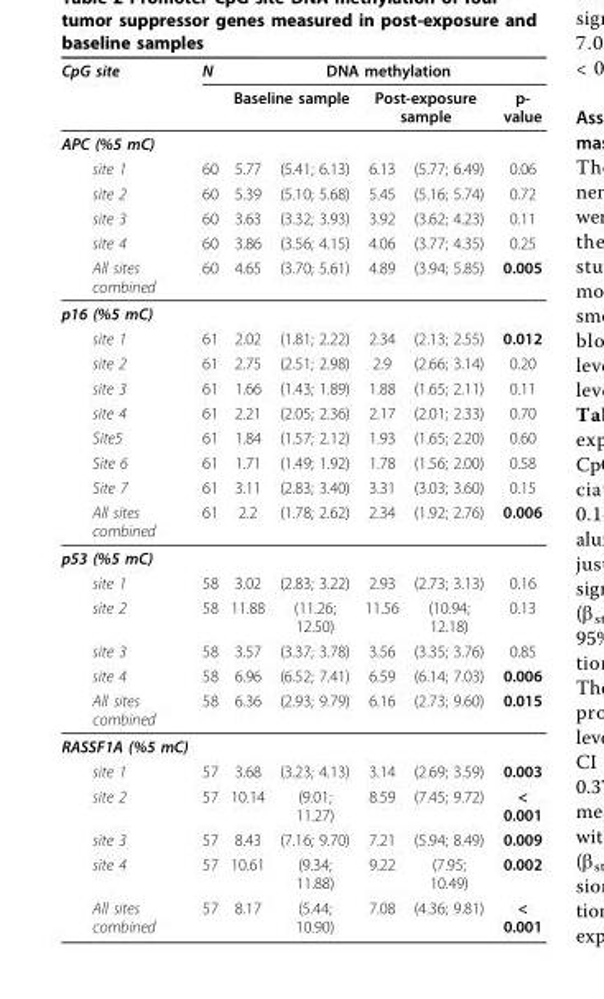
<table><thead><tr><td rowspan="3">CpG site APC (%5 mC)</td><td rowspan="3">N</td><td colspan="5">DNA methylation</td></tr><tr><td colspan="2">Baseline sample</td><td colspan="2">Post-exposure sample</td><td rowspan="2">p- value</td></tr><tr><td></td><td></td><td></td><td></td></tr></thead><tbody><tr><td>site 1</td><td>60</td><td>5.77</td><td>(5.41; 6.13)</td><td>6.13</td><td>(5.77; 6.49)</td><td>0.06</td></tr><tr><td>site 2</td><td>60</td><td>5.39</td><td>(5.10; 5.68)</td><td>5.45</td><td>(5.16; 5.74)</td><td>0.72</td></tr><tr><td>site 3</td><td>60</td><td>3.63</td><td>(3.32; 3.93)</td><td>3.92</td><td>(3.62; 4.23)</td><td>0.11</td></tr><tr><td>site 4</td><td>60</td><td>3.86</td><td>(3.56; 4.15)</td><td>4.06</td><td>(3.77; 4.35)</td><td>0.25</td></tr><tr><td>All sites combined</td><td>60</td><td>4.65</td><td>(3.70; 5.61)</td><td>4.89</td><td>(3.94; 5.85)</td><td>0.005</td></tr><tr><td colspan="7">p16 (%5 mC)</td></tr><tr><td>site 1</td><td>61</td><td>2.02</td><td>(1.81; 2.22)</td><td>2.34</td><td>(2.13; 2.55)</td><td>0.012</td></tr><tr><td>site 2</td><td>61</td><td>2.75</td><td>(2.51; 2.98)</td><td>2.9</td><td>(2.66; 3.14)</td><td>0.20</td></tr><tr><td>site 3</td><td>61</td><td>1.66</td><td>(1.43; 1.89)</td><td>1.88</td><td>(1.65; 2.11)</td><td>0.11</td></tr><tr><td>site 4</td><td>61</td><td>2.21</td><td>(2.05; 2.36)</td><td>2.17</td><td>(2.01; 2.33)</td><td>0.70</td></tr><tr><td>Site5</td><td>61</td><td>1.84</td><td>(1.57; 2.12)</td><td>1.93</td><td>(1.65; 2.20)</td><td>0.60</td></tr><tr><td>Site 6</td><td>61</td><td>1.71</td><td>(1.49; 1.92)</td><td>1.78</td><td>(1.56; 2.00)</td><td>0.58</td></tr><tr><td>Site 7</td><td>61</td><td>3.11</td><td>(2.83; 3.40)</td><td>3.31</td><td>(3.03; 3.60)</td><td>0.15</td></tr><tr><td>All sites combined</td><td>61</td><td>2.2</td><td>(1.78; 2.62)</td><td>2.34</td><td>(1.92; 2.76)</td><td>0.006</td></tr><tr><td colspan="7">p53 (%5 mC)</td></tr><tr><td>site 1</td><td>58</td><td>3.02</td><td>(2.83; 3.22)</td><td>2.93</td><td>(2.73; 3.13)</td><td>0.16</td></tr><tr><td>site 2</td><td>58</td><td>11.88</td><td>(11.26; 12.50)</td><td>11.56</td><td>(10.94; 12.18)</td><td>0.13</td></tr><tr><td>site 3</td><td>58</td><td>3.57</td><td>(3.37; 3.78)</td><td>3.56</td><td>(3.35; 3.76)</td><td>0.85</td></tr><tr><td>site 4</td><td>58</td><td>6.96</td><td>(6.52; 7.41)</td><td>6.59</td><td>(6.14; 7.03)</td><td>0.006</td></tr><tr><td>All sites combined</td><td>58</td><td>6.36</td><td>(2.93; 9.79)</td><td>6.16</td><td>(2.73; 9.60)</td><td>0.015</td></tr><tr><td colspan="7">RASSF1A (%5 mC)</td></tr><tr><td>site 1</td><td>57</td><td>3.68</td><td>(3.23; 4.13)</td><td>3.14</td><td>(2.69; 3.59)</td><td>0.003</td></tr><tr><td>site 2</td><td>57</td><td>10.14</td><td>(9.01; 11.27)</td><td>8.59</td><td>(7.45; 9.72)</td><td>&lt; 0.001</td></tr><tr><td>site 3</td><td>57</td><td>8.43</td><td>(7.16; 9.70)</td><td>7.21</td><td>(5.94; 8.49)</td><td>0.009</td></tr><tr><td>site 4</td><td>57</td><td>10.61</td><td>(9.34; 11.88)</td><td>9.22</td><td>(7.95; 10.49)</td><td>0.002</td></tr><tr><td>All sites combined</td><td>57</td><td>8.17</td><td>(5.44; 10.90)</td><td>7.08</td><td>(4.36; 9.81)</td><td>&lt; 0.001</td></tr></tbody></table>